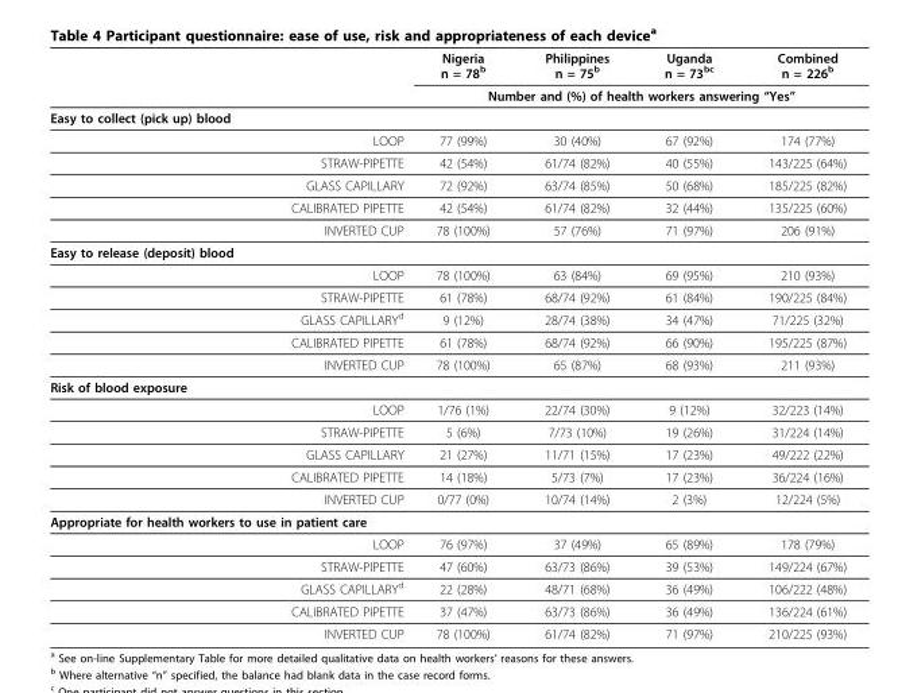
<table><thead><tr><td rowspan="2"></td><td>Nigeria n = 78<sup>b</sup></td><td>Philippines n = 75<sup>b</sup></td><td>Uganda n = 73<sup>bc</sup></td><td>Combined n = 226<sup>b</sup></td></tr><tr><td colspan="4">Number and (%) of health workers answering “Yes”</td></tr></thead><tbody><tr><td colspan="5">Easy to collect (pick up) blood</td></tr><tr><td>LOOP</td><td>77 (99%)</td><td>30 (40%)</td><td>67 (92%)</td><td>174 (77%)</td></tr><tr><td>STRAW-PIPETTE</td><td>42 (54%)</td><td>61/74 (82%)</td><td>40 (55%)</td><td>143/225 (64%)</td></tr><tr><td>GLASS CAPILLARY</td><td>72 (92%)</td><td>63/74 (85%)</td><td>50 (68%)</td><td>185/225 (82%)</td></tr><tr><td>CALIBRATED PIPETTE</td><td>42 (54%)</td><td>61/74 (82%)</td><td>32 (44%)</td><td>135/225 (60%)</td></tr><tr><td>INVERTED CUP</td><td>78 (100%)</td><td>57 (76%)</td><td>71 (97%)</td><td>206 (91%)</td></tr><tr><td colspan="5">Easy to release (deposit) blood</td></tr><tr><td>LOOP</td><td>78 (100%)</td><td>63 (84%)</td><td>69 (95%)</td><td>210 (93%)</td></tr><tr><td>STRAW-PIPETTE</td><td>61 (78%)</td><td>68/74 (92%)</td><td>61 (84%)</td><td>190/225 (84%)</td></tr><tr><td>GLASS CAPILLARY<sup>d</sup></td><td>9 (12%)</td><td>28/74 (38%)</td><td>34 (47%)</td><td>71/225 (32%)</td></tr><tr><td>CALIBRATED PIPETTE</td><td>61 (78%)</td><td>68/74 (92%)</td><td>66 (90%)</td><td>195/225 (87%)</td></tr><tr><td>INVERTED CUP</td><td>78 (100%)</td><td>65 (87%)</td><td>68 (93%)</td><td>211 (93%)</td></tr><tr><td colspan="5">Risk of blood exposure</td></tr><tr><td>LOOP</td><td>1/76 (1%)</td><td>22/74 (30%)</td><td>9 (12%)</td><td>32/223 (14%)</td></tr><tr><td>STRAW-PIPETTE</td><td>5 (6%)</td><td>7/73 (10%)</td><td>19 (26%)</td><td>31/224 (14%)</td></tr><tr><td>GLASS CAPILLARY</td><td>21 (27%)</td><td>11/71 (15%)</td><td>17 (23%)</td><td>49/222 (22%)</td></tr><tr><td>CALIBRATED PIPETTE</td><td>14 (18%)</td><td>5/73 (7%)</td><td>17 (23%)</td><td>36/224 (16%)</td></tr><tr><td>INVERTED CUP</td><td>0/77 (0%)</td><td>10/74 (14%)</td><td>2 (3%)</td><td>12/224 (5%)</td></tr><tr><td colspan="5">Appropriate for health workers to use in patient care</td></tr><tr><td>LOOP</td><td>76 (97%)</td><td>37 (49%)</td><td>65 (89%)</td><td>178 (79%)</td></tr><tr><td>STRAW-PIPETTE</td><td>47 (60%)</td><td>63/73 (86%)</td><td>39 (53%)</td><td>149/224 (67%)</td></tr><tr><td>GLASS CAPILLARY<sup>d</sup></td><td>22 (28%)</td><td>48/71 (68%)</td><td>36 (49%)</td><td>106/222 (48%)</td></tr><tr><td>CALIBRATED PIPETTE</td><td>37 (47%)</td><td>63/73 (86%)</td><td>36 (49%)</td><td>136/224 (61%)</td></tr><tr><td>INVERTED CUP</td><td>78 (100%)</td><td>61/74 (82%)</td><td>71 (97%)</td><td>210/225 (93%)</td></tr></tbody></table>